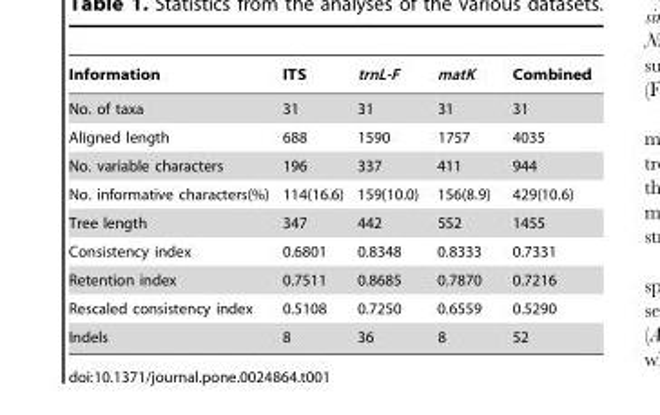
<table><thead><tr><td>Information</td><td>ITS</td><td>trnL-F</td><td>matK</td><td>Combined</td></tr></thead><tbody><tr><td>No. of taxa</td><td>31</td><td>31</td><td>31</td><td>31</td></tr><tr><td>Aligned length</td><td>688</td><td>1590</td><td>1757</td><td>4035</td></tr><tr><td>No. variable characters</td><td>196</td><td>337</td><td>411</td><td>944</td></tr><tr><td>No. informative characters(%)</td><td>114(16.6)</td><td>159(10.0)</td><td>156(8.9)</td><td>429(10.6)</td></tr><tr><td>Tree length</td><td>347</td><td>442</td><td>552</td><td>1455</td></tr><tr><td>Consistency index</td><td>0.6801</td><td>0.8348</td><td>0.8333</td><td>0.7331</td></tr><tr><td>Retention index</td><td>0.7511</td><td>0.8685</td><td>0.7870</td><td>0.7216</td></tr><tr><td>Rescaled consistency index</td><td>0.5108</td><td>0.7250</td><td>0.6559</td><td>0.5290</td></tr><tr><td>Indels</td><td>8</td><td>36</td><td>8</td><td>52</td></tr></tbody></table>